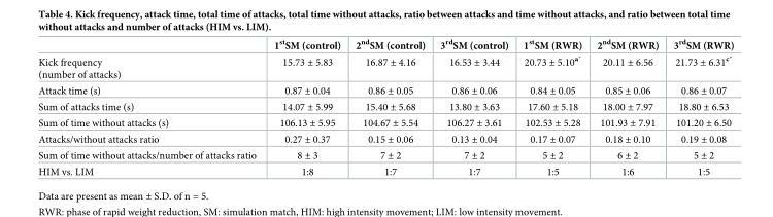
<table><thead><tr><td></td><td>1<sup>st</sup>SM (control)</td><td>2<sup>nd</sup>SM (control)</td><td>3<sup>rd</sup>SM (control)</td><td>1<sup>st</sup>SM (RWR)</td><td>2<sup>nd</sup>SM (RWR)</td><td>3<sup>rd</sup>SM (RWR)</td></tr></thead><tbody><tr><td>Kick frequency (number of attacks)</td><td>15.73 ± 5.83</td><td>16.87 ± 4.16</td><td>16.53 ± 3.44</td><td>20.73 ± 5.10<sup>a*</sup></td><td>20.11 ± 6.56</td><td>21.73 ± 6.31<sup>c*</sup></td></tr><tr><td>Attack time (s)</td><td>0.87 ± 0.04</td><td>0.86 ± 0.05</td><td>0.86 ± 0.06</td><td>0.84 ± 0.05</td><td>0.85 ± 0.06</td><td>0.86 ± 0.07</td></tr><tr><td>Sum of attacks time (s)</td><td>14.07 ± 5.99</td><td>15.40 ± 5.68</td><td>13.80 ± 3.63</td><td>17.60 ± 5.18</td><td>18.00 ± 7.97</td><td>18.80 ± 6.53</td></tr><tr><td>Sum of time without attacks (s)</td><td>106.13 ± 5.95</td><td>104.67 ± 5.54</td><td>106.27 ± 3.61</td><td>102.53 ± 5.28</td><td>101.93 ± 7.91</td><td>101.20 ± 6.50</td></tr><tr><td>Attacks/without attacks ratio</td><td>0.27 ± 0.37</td><td>0.15 ± 0.06</td><td>0.13 ± 0.04</td><td>0.17 ± 0.07</td><td>0.18 ± 0.10</td><td>0.19 ± 0.08</td></tr><tr><td>Sum of time without attacks/number of attacks ratio</td><td>8 ± 3</td><td>7 ± 2</td><td>7 ± 2</td><td>5 ± 2</td><td>6 ± 2</td><td>5 ± 2</td></tr><tr><td>HIM vs. LIM</td><td>1:8</td><td>1:7</td><td>1:7</td><td>1:5</td><td>1:6</td><td>1:5</td></tr></tbody></table>